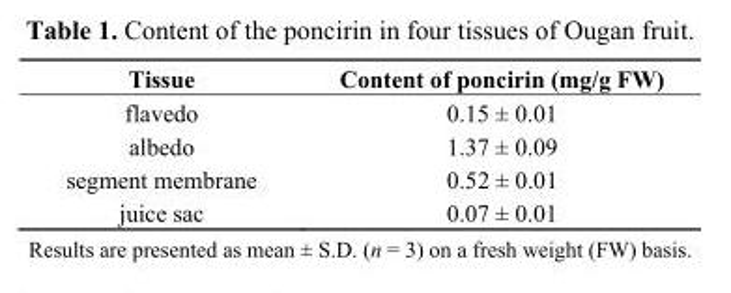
<table><thead><tr><td>Tissue</td><td>Content of poncirin (mg/g FW)</td></tr></thead><tbody><tr><td>flavedo</td><td>0.15 ± 0.01</td></tr><tr><td>albedo</td><td>1.37 ± 0.09</td></tr><tr><td>segment membrane</td><td>0.52 ± 0.01</td></tr><tr><td>juice sac</td><td>0.07 ± 0.01</td></tr></tbody></table>